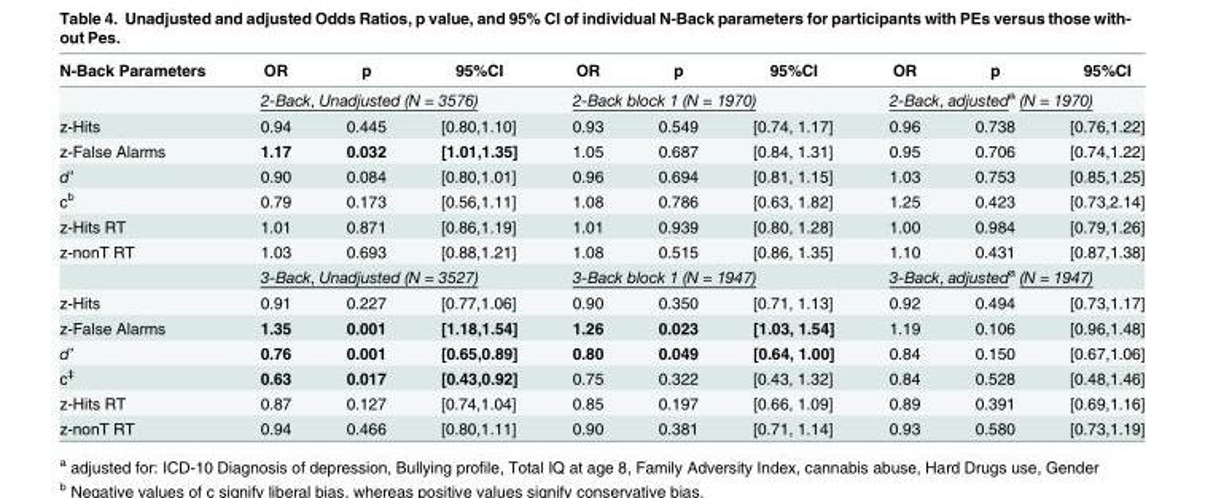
<table><thead><tr><td>N-Back Parameters</td><td>OR</td><td>p</td><td>95%CI</td><td>OR</td><td>p</td><td>95%CI</td><td>OR</td><td>p</td><td>95%CI</td></tr></thead><tbody><tr><td></td><td colspan="3">2-Back, Unadjusted (N = 3576)</td><td colspan="3">2-Back block 1 (N = 1970)</td><td colspan="3">2-Back, adjusted<sup>a</sup> (N = 1970)</td></tr><tr><td>z-Hits</td><td>0.94</td><td>0.445</td><td>[0.80,1.10]</td><td>0.93</td><td>0.549</td><td>[0.74, 1.17]</td><td>0.96</td><td>0.738</td><td>[0.76,1.22]</td></tr><tr><td>z-False Alarms</td><td>1.17</td><td>0.032</td><td>[1.01,1.35]</td><td>1.05</td><td>0.687</td><td>[0.84, 1.31]</td><td>0.95</td><td>0.706</td><td>[0.74,1.22]</td></tr><tr><td>d’</td><td>0.90</td><td>0.084</td><td>[0.80,1.01]</td><td>0.96</td><td>0.694</td><td>[0.81, 1.15]</td><td>1.03</td><td>0.753</td><td>[0.85,1.25]</td></tr><tr><td>c<sup>b</sup></td><td>0.79</td><td>0.173</td><td>[0.56,1.11]</td><td>1.08</td><td>0.786</td><td>[0.63, 1.82]</td><td>1.25</td><td>0.423</td><td>[0.73,2.14]</td></tr><tr><td>z-Hits RT</td><td>1.01</td><td>0.871</td><td>[0.86,1.19]</td><td>1.01</td><td>0.939</td><td>[0.80, 1.28]</td><td>1.00</td><td>0.984</td><td>[0.79,1.26]</td></tr><tr><td rowspan="2">z-nonT RT</td><td>1.03</td><td>0.693</td><td>[0.88,1.21]</td><td>1.08</td><td>0.515</td><td>[0.86, 1.35]</td><td>1.10</td><td>0.431</td><td>[0.87,1.38]</td></tr><tr><td colspan="3">3-Back, Unadjusted (N = 3527)</td><td colspan="3">3-Back block 1 (N = 1947)</td><td colspan="3">3-Back, adjusted<sup>a</sup> (N = 1947)</td></tr><tr><td>z-Hits</td><td>0.91</td><td>0.227</td><td>[0.77,1.06]</td><td>0.90</td><td>0.350</td><td>[0.71, 1.13]</td><td>0.92</td><td>0.494</td><td>[0.73,1.17]</td></tr><tr><td>z-False Alarms</td><td>1.35</td><td>0.001</td><td>[1.18,1.54]</td><td>1.26</td><td>0.023</td><td>[1.03, 1.54]</td><td>1.19</td><td>0.106</td><td>[0.96,1.48]</td></tr><tr><td>d’</td><td>0.76</td><td>0.001</td><td>[0.65,0.89]</td><td>0.80</td><td>0.049</td><td>[0.64, 1.00]</td><td>0.84</td><td>0.150</td><td>[0.67,1.06]</td></tr><tr><td>c<sup>‡</sup></td><td>0.63</td><td>0.017</td><td>[0.43,0.92]</td><td>0.75</td><td>0.322</td><td>[0.43, 1.32]</td><td>0.84</td><td>0.528</td><td>[0.48,1.46]</td></tr><tr><td>z-Hits RT</td><td>0.87</td><td>0.127</td><td>[0.74,1.04]</td><td>0.85</td><td>0.197</td><td>[0.66, 1.09]</td><td>0.89</td><td>0.391</td><td>[0.69,1.16]</td></tr><tr><td>z-nonT RT</td><td>0.94</td><td>0.466</td><td>[0.80,1.11]</td><td>0.90</td><td>0.381</td><td>[0.71, 1.14]</td><td>0.93</td><td>0.580</td><td>[0.73,1.19]</td></tr></tbody></table>